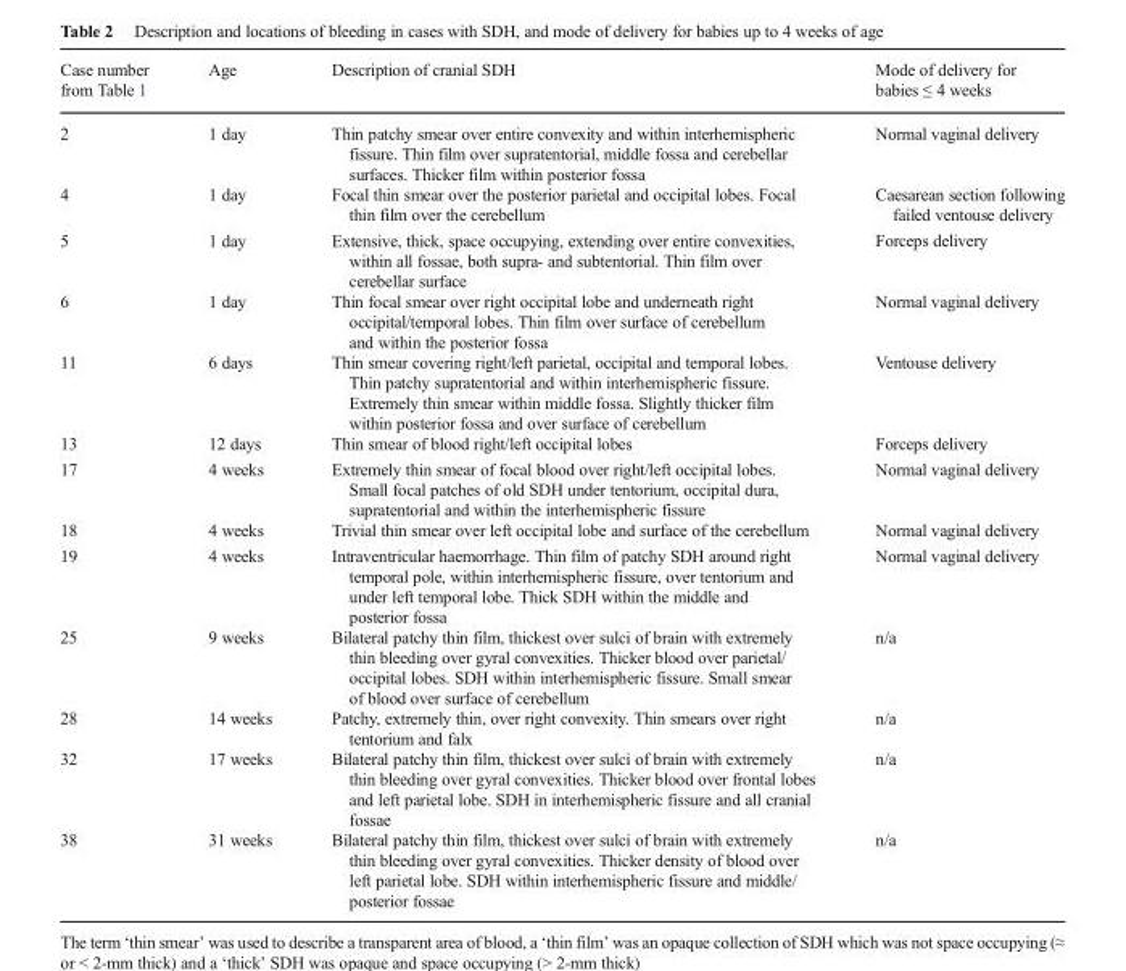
<table><thead><tr><td>Case number from Table 1</td><td>Age</td><td>Description of cranial SDH</td><td>Mode of delivery for babies ≤ 4 weeks</td></tr></thead><tbody><tr><td>2</td><td>1 day</td><td>Thin patchy smear over entire convexity and within interhemispheric fissure. Thin film over supratentorial, middle fossa and cerebellar surfaces. Thicker film within posterior fossa</td><td>Normal vaginal delivery</td></tr><tr><td>4</td><td>1 day</td><td>Focal thin smear over the posterior parietal and occipital lobes. Focal thin film over the cerebellum</td><td>Caesarean section following failed ventouse delivery</td></tr><tr><td>5</td><td>1 day</td><td>Extensive, thick, space occupying, extending over entire convexities, within all fossae, both supra- and subtentorial. Thin film over cerebellar surface</td><td>Forceps delivery</td></tr><tr><td>6</td><td>1 day</td><td>Thin focal smear over right occipital lobe and underneath right occipital/temporal lobes. Thin film over surface of cerebellum and within the posterior fossa</td><td>Normal vaginal delivery</td></tr><tr><td>11</td><td>6 days</td><td>Thin smear covering right/left parietal, occipital and temporal lobes. Thin patchy supratentorial and within interhemispheric fissure. Extremely thin smear within middle fossa. Slightly thicker film within posterior fossa and over surface of cerebellum</td><td>Ventouse delivery</td></tr><tr><td>13</td><td>12 days</td><td>Thin smear of blood right/left occipital lobes</td><td>Forceps delivery</td></tr><tr><td>17</td><td>4 weeks</td><td>Extremely thin smear of focal blood over right/left occipital lobes. Small focal patches of old SDH under tentorium, occipital dura, supratentorial and within the interhemispheric fissure</td><td>Normal vaginal delivery</td></tr><tr><td>18</td><td>4 weeks</td><td>Trivial thin smear over left occipital lobe and surface of the cerebellum</td><td>Normal vaginal delivery</td></tr><tr><td>19</td><td>4 weeks</td><td>Intraventricular haemorrhage. Thin film of patchy SDH around right temporal pole, within interhemispheric fissure, over tentorium and under left temporal lobe. Thick SDH within the middle and posterior fossa</td><td>Normal vaginal delivery</td></tr><tr><td>25</td><td>9 weeks</td><td>Bilateral patchy thin film, thickest over sulci of brain with extremely thin bleeding over gyral convexities. Thicker blood over parietal/ occipital lobes. SDH within interhemispheric fissure. Small smear of blood over surface of cerebellum</td><td>n/a</td></tr><tr><td>28</td><td>14 weeks</td><td>Patchy, extremely thin, over right convexity. Thin smears over right tentorium and falx</td><td>n/a</td></tr><tr><td>32</td><td>17 weeks</td><td>Bilateral patchy thin film, thickest over sulci of brain with extremely thin bleeding over gyral convexities. Thicker blood over frontal lobes and left parietal lobe. SDH in interhemispheric fissure and all cranial fossae</td><td>n/a</td></tr><tr><td>38</td><td>31 weeks</td><td>Bilateral patchy thin film, thickest over sulci of brain with extremely thin bleeding over gyral convexities. Thicker density of blood over left parietal lobe. SDH within interhemispheric fissure and middle/ posterior fossae</td><td>n/a</td></tr></tbody></table>